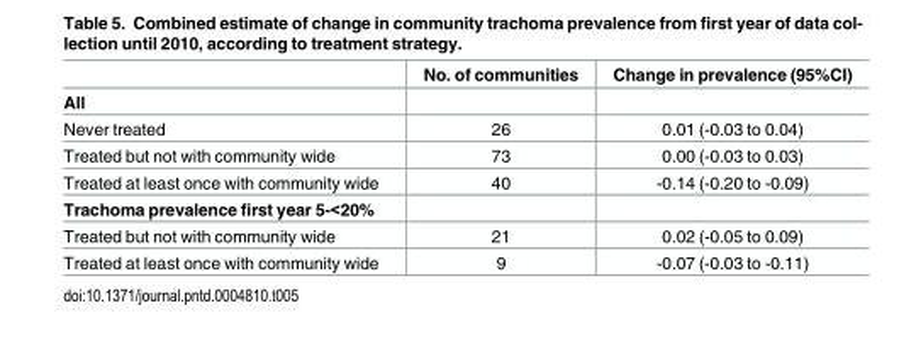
<table><thead><tr><td></td><td>No. of communities</td><td>Change in prevalence (95%CI)</td></tr></thead><tbody><tr><td colspan="3">All</td></tr><tr><td>Never treated</td><td>26</td><td>0.01 (-0.03 to 0.04)</td></tr><tr><td>Treated but not with community wide</td><td>73</td><td>0.00 (-0.03 to 0.03)</td></tr><tr><td>Treated at least once with community wide</td><td>40</td><td>-0.14 (-0.20 to -0.09)</td></tr><tr><td colspan="3">Trachoma prevalence first year 5-&lt;20%</td></tr><tr><td>Treated but not with community wide</td><td>21</td><td>0.02 (-0.05 to 0.09)</td></tr><tr><td>Treated at least once with community wide</td><td>9</td><td>-0.07 (-0.03 to -0.11)</td></tr></tbody></table>